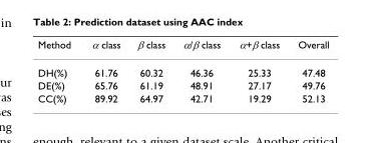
<table><thead><tr><td>Method</td><td>α class</td><td>β class</td><td>α/β class</td><td>α+β class</td><td>Overall</td></tr></thead><tbody><tr><td>DH(%)</td><td>61.76</td><td>60.32</td><td>46.36</td><td>25.33</td><td>47.48</td></tr><tr><td>DE(%)</td><td>65.76</td><td>61.19</td><td>48.91</td><td>27.17</td><td>49.76</td></tr><tr><td>CC(%)</td><td>89.92</td><td>64.97</td><td>42.71</td><td>19.29</td><td>52.13</td></tr></tbody></table>